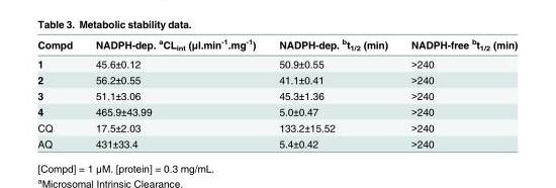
<table><thead><tr><td>Compd</td><td>NADPH-dep. <sup>a</sup>CL<sub>int</sub> (μl.min<sup>-1</sup>.mg<sup>-1</sup>)</td><td>NADPH-dep. <sup>b</sup>t<sub>1/2</sub> (min)</td><td>NADPH-free <sup>b</sup>t<sub>1/2</sub> (min)</td></tr></thead><tbody><tr><td>1</td><td>45.6±0.12</td><td>50.9±0.55</td><td>&gt;240</td></tr><tr><td>2</td><td>56.2±0.55</td><td>41.1±0.41</td><td>&gt;240</td></tr><tr><td>3</td><td>51.1±3.06</td><td>45.3±1.36</td><td>&gt;240</td></tr><tr><td>4</td><td>465.9±43.99</td><td>5.0±0.47</td><td>&gt;240</td></tr><tr><td>CQ</td><td>17.5±2.03</td><td>133.2±15.52</td><td>&gt;240</td></tr><tr><td>AQ</td><td>431±33.4</td><td>5.4±0.42</td><td>&gt;240</td></tr></tbody></table>